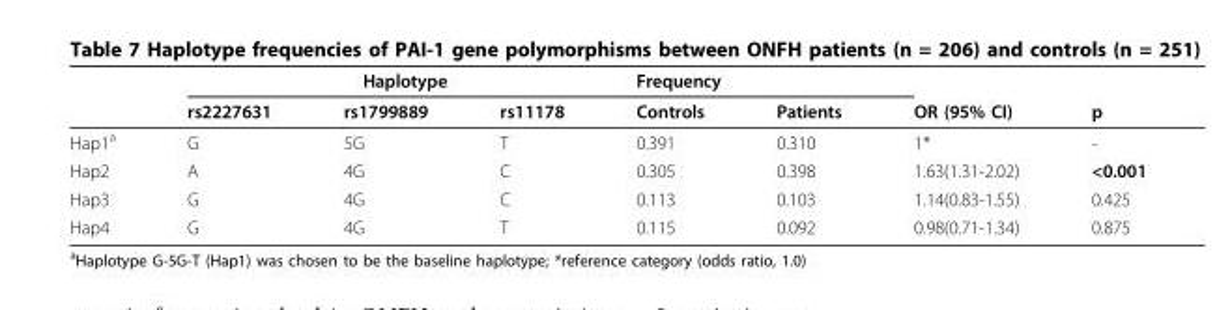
<table><thead><tr><td rowspan="2"></td><td colspan="3">Haplotype</td><td colspan="2">Frequency</td><td rowspan="2">OR (95% CI)</td><td rowspan="2">p</td></tr><tr><td>rs2227631</td><td>rs1799889</td><td>rs11178</td><td>Controls</td><td>Patients</td></tr></thead><tbody><tr><td>Hap1<sup>a</sup></td><td>G</td><td>5G</td><td>T</td><td>0.391</td><td>0.310</td><td>1*</td><td>-</td></tr><tr><td>Hap2</td><td>A</td><td>4G</td><td>C</td><td>0.305</td><td>0.398</td><td>1.63(1.31-2.02)</td><td>&lt;0.001</td></tr><tr><td>Hap3</td><td>G</td><td>4G</td><td>C</td><td>0.113</td><td>0.103</td><td>1.14(0.83-1.55)</td><td>0.425</td></tr><tr><td>Hap4</td><td>G</td><td>4G</td><td>T</td><td>0.115</td><td>0.092</td><td>0.98(0.71-1.34)</td><td>0.875</td></tr></tbody></table>